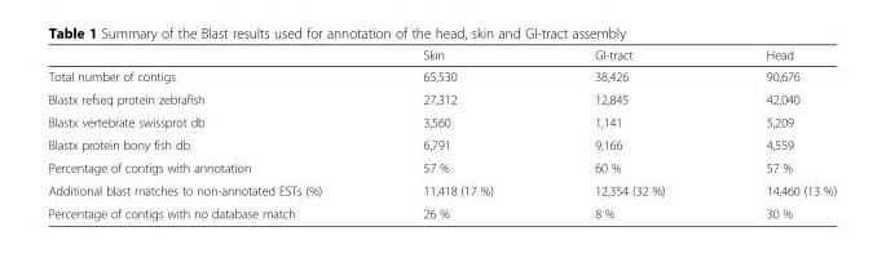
<table><thead><tr><td></td><td>Skin</td><td>GI-tract</td><td>Head</td></tr></thead><tbody><tr><td>Total number of contigs</td><td>65,530</td><td>38,426</td><td>90,676</td></tr><tr><td>Blastx refseq protein zebrafish</td><td>27,312</td><td>12,845</td><td>42,040</td></tr><tr><td>Blastx vertebrate swissprot db</td><td>3,560</td><td>1,141</td><td>5,209</td></tr><tr><td>Blastx protein bony fish db</td><td>6,791</td><td>9,166</td><td>4,559</td></tr><tr><td>Percentage of contigs with annotation</td><td>57 %</td><td>60 %</td><td>57 %</td></tr><tr><td>Additional blast matches to non-annotated ESTs (%)</td><td>11,418 (17 %)</td><td>12,354 (32 %)</td><td>14,460 (13 %)</td></tr><tr><td>Percentage of contigs with no database match</td><td>26 %</td><td>8 %</td><td>30 %</td></tr></tbody></table>